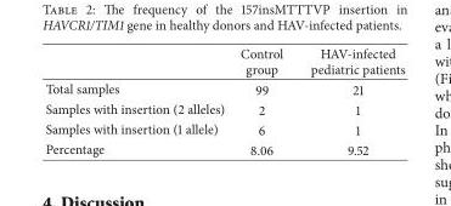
<table><thead><tr><td></td><td>Control group</td><td>HAV-infected pediatric patients</td></tr></thead><tbody><tr><td>Total samples</td><td>99</td><td>21</td></tr><tr><td>Samples with insertion (2 alleles)</td><td>2</td><td>1</td></tr><tr><td>Samples with insertion (1 allele)</td><td>6</td><td>1</td></tr><tr><td>Percentage</td><td>8.06</td><td>9.52</td></tr></tbody></table>